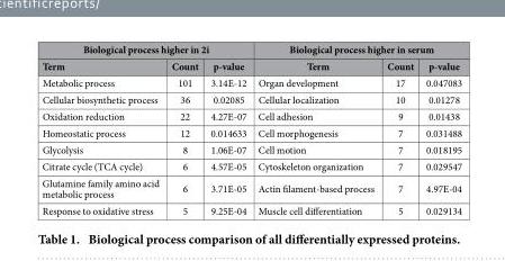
<table><thead><tr><td colspan="3">Biological process higher in 2i</td><td colspan="3">Biological process higher in serum</td></tr><tr><td>Term</td><td>Count</td><td>p-value</td><td>Term</td><td>Count</td><td>p-value</td></tr></thead><tbody><tr><td>Metabolic process</td><td>101</td><td>3.14E-12</td><td>Organ development</td><td>17</td><td>0.047083</td></tr><tr><td>Cellular biosynthetic process</td><td>36</td><td>0.02085</td><td>Cellular localization</td><td>10</td><td>0.01278</td></tr><tr><td>Oxidation reduction</td><td>22</td><td>4.27E-07</td><td>Cell adhesion</td><td>9</td><td>0.01438</td></tr><tr><td>Homeostatic process</td><td>12</td><td>0.014633</td><td>Cell morphogenesis</td><td>7</td><td>0.031488</td></tr><tr><td>Glycolysis</td><td>8</td><td>1.06E-07</td><td>Cell motion</td><td>7</td><td>0.018195</td></tr><tr><td>Citrate cycle (TCA cycle)</td><td>6</td><td>4.57E-05</td><td>Cytoskeleton organization</td><td>7</td><td>0.029547</td></tr><tr><td>Glutamine family amino acid metabolic process</td><td>6</td><td>3.71E-05</td><td>Actin filament-based process</td><td>7</td><td>4.97E-04</td></tr><tr><td>Response to oxidative stress</td><td>5</td><td>9.25E-04</td><td>Muscle cell differentiation</td><td>5</td><td>0.029134</td></tr></tbody></table>